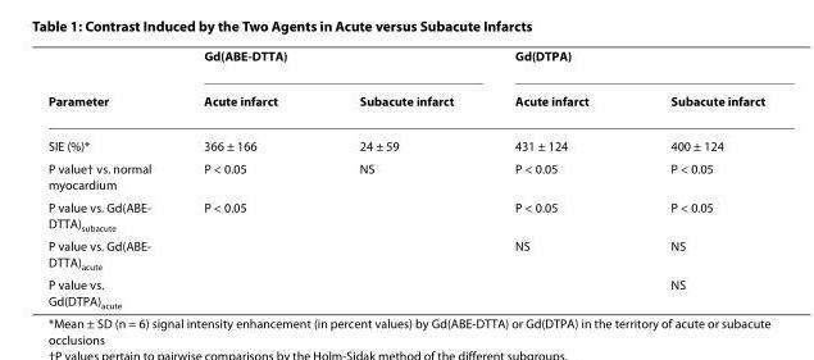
<table><thead><tr><td rowspan="2">Parameter</td><td colspan="2">Gd(ABE-DTTA)</td><td colspan="2">Gd(DTPA)</td></tr><tr><td>Acute infarct</td><td>Subacute infarct</td><td>Acute infarct</td><td>Subacute infarct</td></tr></thead><tbody><tr><td>SIE (%)*</td><td>366 ± 166</td><td>24 ± 59</td><td>431 ± 124</td><td>400 ± 124</td></tr><tr><td>P value† vs. normal myocardium</td><td>P &lt; 0.05</td><td>NS</td><td>P &lt; 0.05</td><td>P &lt; 0.05</td></tr><tr><td>P value vs. Gd(ABE- DTTA)<sub>subacute</sub></td><td>P &lt; 0.05</td><td></td><td>P &lt; 0.05</td><td>P &lt; 0.05</td></tr><tr><td>P value vs. Gd(ABE- DTTA)<sub>acute</sub></td><td></td><td></td><td>NS</td><td>NS</td></tr><tr><td>P value vs. Gd(DTPA)<sub>acute</sub></td><td></td><td></td><td></td><td>NS</td></tr></tbody></table>